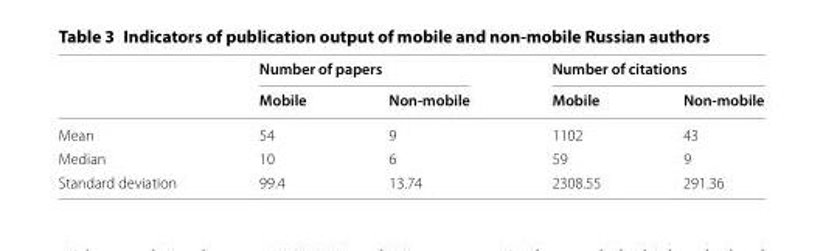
<table><thead><tr><td rowspan="2"></td><td colspan="2">Number of papers</td><td colspan="2">Number of citations</td></tr><tr><td>Mobile</td><td>Non-mobile</td><td>Mobile</td><td>Non-mobile</td></tr></thead><tbody><tr><td>Mean</td><td>54</td><td>9</td><td>1102</td><td>43</td></tr><tr><td>Median</td><td>10</td><td>6</td><td>59</td><td>9</td></tr><tr><td>Standard deviation</td><td>99.4</td><td>13.74</td><td>2308.55</td><td>291.36</td></tr></tbody></table>